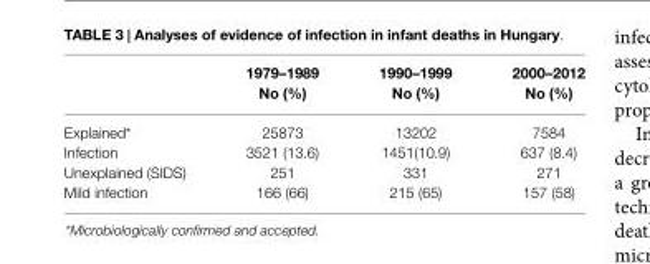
<table><thead><tr><td></td><td>1979–1989 No (%)</td><td>1990–1999 No (%)</td><td>2000–2012 No (%)</td></tr></thead><tbody><tr><td>Explained*</td><td>25873</td><td>13202</td><td>7584</td></tr><tr><td>Infection</td><td>3521 (13.6)</td><td>1451(10.9)</td><td>637 (8.4)</td></tr><tr><td>Unexplained (SIDS)</td><td>251</td><td>331</td><td>271</td></tr><tr><td>Mild infection</td><td>166 (66)</td><td>215 (65)</td><td>157 (58)</td></tr></tbody></table>